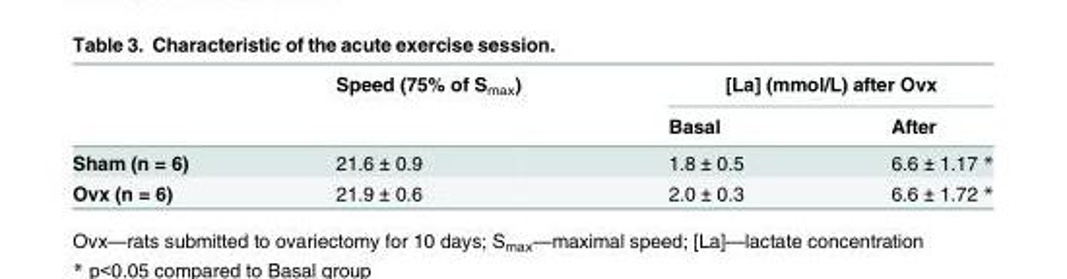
<table><thead><tr><td rowspan="2"></td><td rowspan="2">Speed (75% of S<sub>max</sub>)</td><td colspan="2">[La] (mmol/L) after Ovx</td></tr><tr><td>Basal</td><td>After</td></tr></thead><tbody><tr><td>Sham (n = 6)</td><td>21.6 ± 0.9</td><td>1.8 ± 0.5</td><td>6.6 ± 1.17 *</td></tr><tr><td>Ovx (n = 6)</td><td>21.9 ± 0.6</td><td>2.0 ± 0.3</td><td>6.6 ± 1.72 *</td></tr></tbody></table>